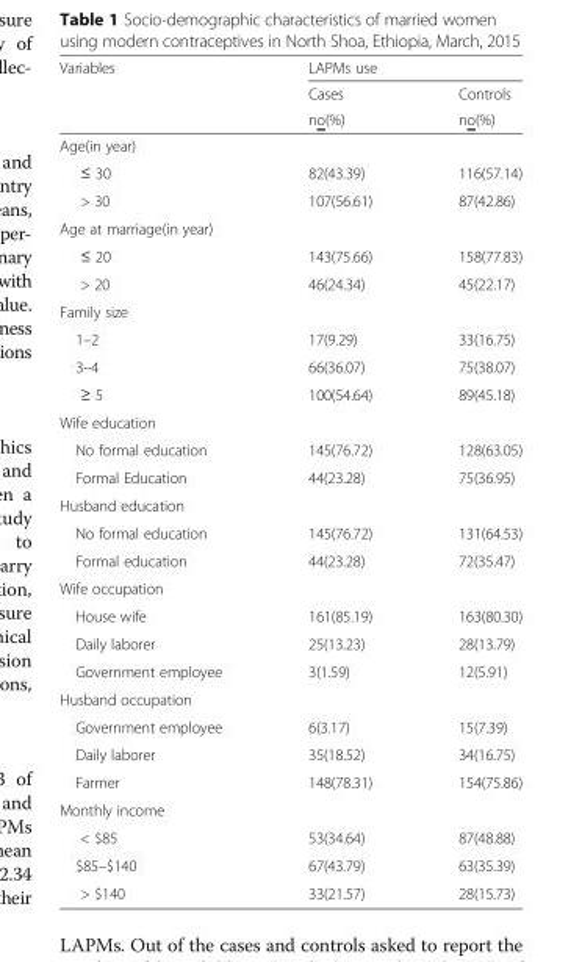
<table><thead><tr><td rowspan="3">Variables</td><td colspan="2">LAPMs use</td></tr><tr><td rowspan="2">Cases no(%)</td><td rowspan="2">Controls no(%)</td></tr><tr></tr></thead><tbody><tr><td colspan="3">Age(in year)</td></tr><tr><td>≤ 30</td><td>82(43.39)</td><td>116(57.14)</td></tr><tr><td>&gt; 30</td><td>107(56.61)</td><td>87(42.86)</td></tr><tr><td colspan="3">Age at marriage(in year)</td></tr><tr><td>≤ 20</td><td>143(75.66)</td><td>158(77.83)</td></tr><tr><td>&gt; 20</td><td>46(24.34)</td><td>45(22.17)</td></tr><tr><td colspan="3">Family size</td></tr><tr><td>1–2</td><td>17(9.29)</td><td>33(16.75)</td></tr><tr><td>3–4</td><td>66(36.07)</td><td>75(38.07)</td></tr><tr><td>≥ 5</td><td>100(54.64)</td><td>89(45.18)</td></tr><tr><td colspan="3">Wife education</td></tr><tr><td>No formal education</td><td>145(76.72)</td><td>128(63.05)</td></tr><tr><td>Formal Education</td><td>44(23.28)</td><td>75(36.95)</td></tr><tr><td colspan="3">Husband education</td></tr><tr><td>No formal education</td><td>145(76.72)</td><td>131(64.53)</td></tr><tr><td>Formal education</td><td>44(23.28)</td><td>72(35.47)</td></tr><tr><td colspan="3">Wife occupation</td></tr><tr><td>House wife</td><td>161(85.19)</td><td>163(80.30)</td></tr><tr><td>Daily laborer</td><td>25(13.23)</td><td>28(13.79)</td></tr><tr><td>Government employee</td><td>3(1.59)</td><td>12(5.91)</td></tr><tr><td colspan="3">Husband occupation</td></tr><tr><td>Government employee</td><td>6(3.17)</td><td>15(7.39)</td></tr><tr><td>Daily laborer</td><td>35(18.52)</td><td>34(16.75)</td></tr><tr><td>Farmer</td><td>148(78.31)</td><td>154(75.86)</td></tr><tr><td colspan="3">Monthly income</td></tr><tr><td>&lt; $85</td><td>53(34.64)</td><td>87(48.88)</td></tr><tr><td>$85–$140</td><td>67(43.79)</td><td>63(35.39)</td></tr><tr><td>&gt; $140</td><td>33(21.57)</td><td>28(15.73)</td></tr></tbody></table>